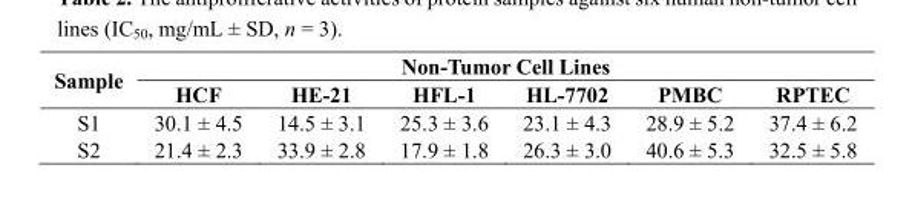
<table><thead><tr><td rowspan="2">Sample</td><td colspan="6">Non-Tumor Cell Lines</td></tr><tr><td>HCF</td><td>HE-21</td><td>HFL-1</td><td>HL-7702</td><td>PMBC</td><td>RPTEC</td></tr></thead><tbody><tr><td>S1</td><td>30.1 ± 4.5</td><td>14.5 ± 3.1</td><td>25.3 ± 3.6</td><td>23.1 ± 4.3</td><td>28.9 ± 5.2</td><td>37.4 ± 6.2</td></tr><tr><td>S2</td><td>21.4 ± 2.3</td><td>33.9 ± 2.8</td><td>17.9 ± 1.8</td><td>26.3 ± 3.0</td><td>40.6 ± 5.3</td><td>32.5 ± 5.8</td></tr></tbody></table>